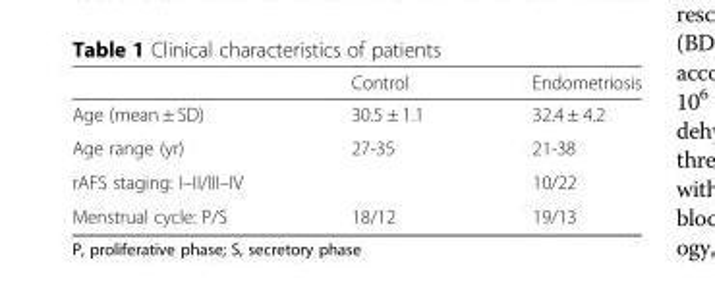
<table><thead><tr><td></td><td>Control</td><td>Endometriosis</td></tr></thead><tbody><tr><td>Age (mean ± SD)</td><td>30.5 ± 1.1</td><td>32.4 ± 4.2</td></tr><tr><td>Age range (yr)</td><td>27-35</td><td>21-38</td></tr><tr><td>rAFS staging: I–II/III–IV</td><td></td><td>10/22</td></tr><tr><td>Menstrual cycle: P/S</td><td>18/12</td><td>19/13</td></tr></tbody></table>